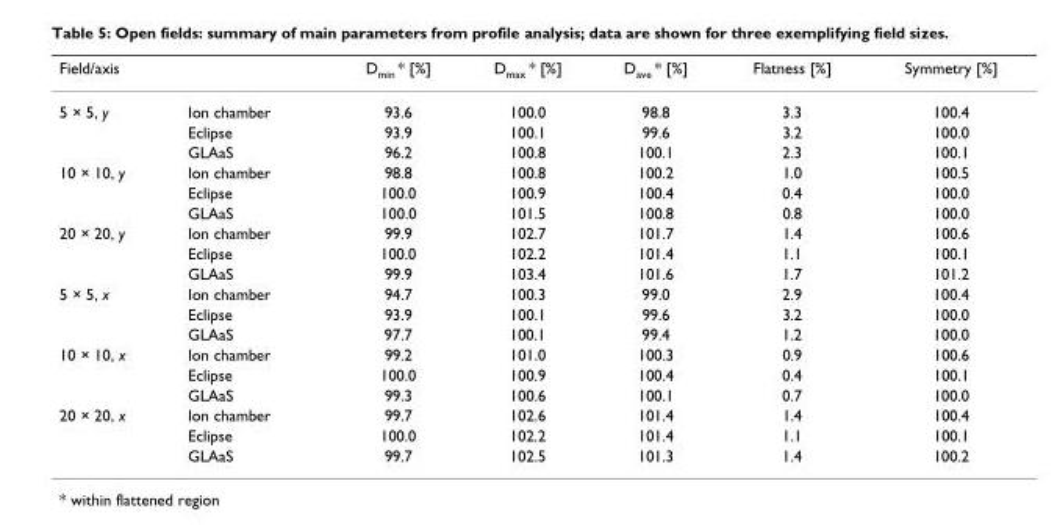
<table><thead><tr><td>Field/axis</td><td></td><td>D<sub>min</sub> * [%]</td><td>D<sub>max</sub> * [%]</td><td>D<sub>ave</sub> * [%]</td><td>Flatness [%]</td><td>Symmetry [%]</td></tr></thead><tbody><tr><td rowspan="3">5 × 5, y</td><td>Ion chamber</td><td>93.6</td><td>100.0</td><td>98.8</td><td>3.3</td><td>100.4</td></tr><tr><td>Eclipse</td><td>93.9</td><td>100.1</td><td>99.6</td><td>3.2</td><td>100.0</td></tr><tr><td>GLAaS</td><td>96.2</td><td>100.8</td><td>100.1</td><td>2.3</td><td>100.1</td></tr><tr><td rowspan="3">10 × 10, y</td><td>Ion chamber</td><td>98.8</td><td>100.8</td><td>100.2</td><td>1.0</td><td>100.5</td></tr><tr><td>Eclipse</td><td>100.0</td><td>100.9</td><td>100.4</td><td>0.4</td><td>100.0</td></tr><tr><td>GLAaS</td><td>100.0</td><td>101.5</td><td>100.8</td><td>0.8</td><td>100.0</td></tr><tr><td rowspan="3">20 × 20, y</td><td>Ion chamber</td><td>99.9</td><td>102.7</td><td>101.7</td><td>1.4</td><td>100.6</td></tr><tr><td>Eclipse</td><td>100.0</td><td>102.2</td><td>101.4</td><td>1.1</td><td>100.1</td></tr><tr><td>GLAaS</td><td>99.9</td><td>103.4</td><td>101.6</td><td>1.7</td><td>101.2</td></tr><tr><td rowspan="3">5 × 5, x</td><td>Ion chamber</td><td>94.7</td><td>100.3</td><td>99.0</td><td>2.9</td><td>100.4</td></tr><tr><td>Eclipse</td><td>93.9</td><td>100.1</td><td>99.6</td><td>3.2</td><td>100.0</td></tr><tr><td>GLAaS</td><td>97.7</td><td>100.1</td><td>99.4</td><td>1.2</td><td>100.0</td></tr><tr><td rowspan="3">10 × 10, x</td><td>Ion chamber</td><td>99.2</td><td>101.0</td><td>100.3</td><td>0.9</td><td>100.6</td></tr><tr><td>Eclipse</td><td>100.0</td><td>100.9</td><td>100.4</td><td>0.4</td><td>100.1</td></tr><tr><td>GLAaS</td><td>99.3</td><td>100.6</td><td>100.1</td><td>0.7</td><td>100.0</td></tr><tr><td rowspan="3">20 × 20, x</td><td>Ion chamber</td><td>99.7</td><td>102.6</td><td>101.4</td><td>1.4</td><td>100.4</td></tr><tr><td>Eclipse</td><td>100.0</td><td>102.2</td><td>101.4</td><td>1.1</td><td>100.1</td></tr><tr><td>GLAaS</td><td>99.7</td><td>102.5</td><td>101.3</td><td>1.4</td><td>100.2</td></tr></tbody></table>